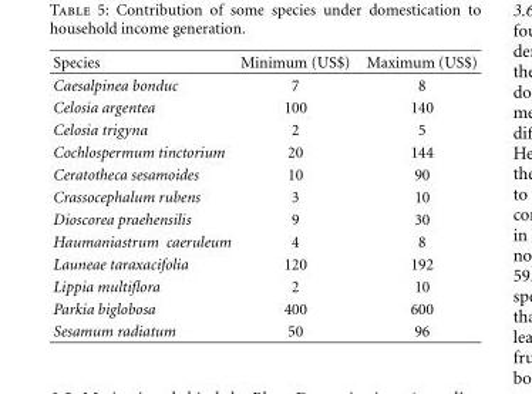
<table><thead><tr><td>Species</td><td>Minimum (US$)</td><td>Maximum (US$)</td></tr></thead><tbody><tr><td>Caesalpinea bonduc</td><td>7</td><td>8</td></tr><tr><td>Celosia argentea</td><td>100</td><td>140</td></tr><tr><td>Celosia trigyna</td><td>2</td><td>5</td></tr><tr><td>Cochlospermum tinctorium</td><td>20</td><td>144</td></tr><tr><td>Ceratotheca sesamoides</td><td>10</td><td>90</td></tr><tr><td>Crassocephalum rubens</td><td>3</td><td>10</td></tr><tr><td>Dioscorea praehensilis</td><td>9</td><td>30</td></tr><tr><td>Haumaniastrum caeruleum</td><td>4</td><td>8</td></tr><tr><td>Launeae taraxacifolia</td><td>120</td><td>192</td></tr><tr><td>Lippia multiflora</td><td>2</td><td>10</td></tr><tr><td>Parkia biglobosa</td><td>400</td><td>600</td></tr><tr><td>Sesamum radiatum</td><td>50</td><td>96</td></tr></tbody></table>